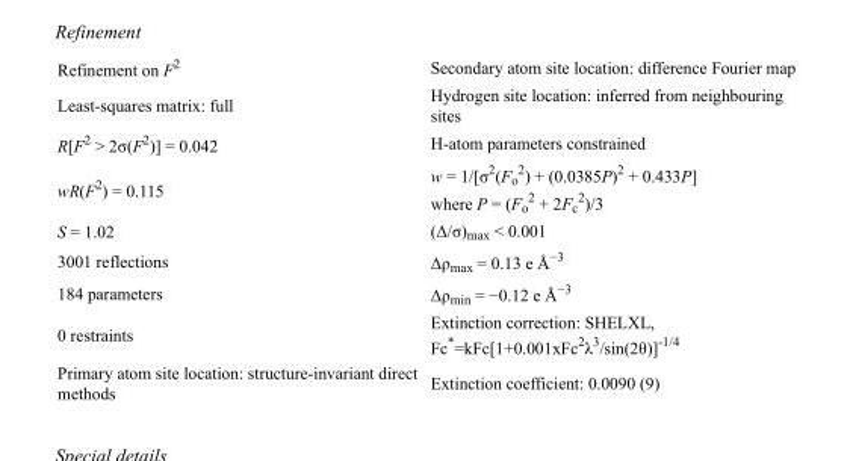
<table><tbody><tr><td>Refinement on F<sup>2</sup></td><td>Secondary atom site location: difference Fourier map</td></tr><tr><td>Least-squares matrix: full</td><td>Hydrogen site location: inferred from neighbouring sites</td></tr><tr><td>R[F<sup>2</sup> &gt; 2σ(F<sup>2</sup>)] = 0.042</td><td>H-atom parameters constrained</td></tr><tr><td>wR(F<sup>2</sup>) = 0.115</td><td>w = 1/[σ<sup>2</sup>(F<sub>o</sub> <sup>2</sup>) + (0.0385P)<sup>2</sup> + 0.433P] where P = (F<sub>o</sub> <sup>2</sup> + 2F<sub>c</sub> <sup>2</sup>)/3</td></tr><tr><td>S = 1.02</td><td>(Δ/σ)<sub>max</sub> &lt; 0.001</td></tr><tr><td>3001 reflections</td><td>Δρ<sub>max</sub> = 0.13 e Å<sup>−3</sup></td></tr><tr><td>184 parameters</td><td>Δρ<sub>min</sub> = −0.12 e Å<sup>−3</sup></td></tr><tr><td>0 restraints</td><td>Extinction correction: SHELXL, Fc*=kFc[1+0.001xFc<sup>2</sup>λ<sup>3</sup>/sin(2θ)]<sup>-1/4</sup></td></tr><tr><td>Primary atom site location: structure-invariant direct methods</td><td>Extinction coefficient: 0.0090 (9)</td></tr></tbody></table>